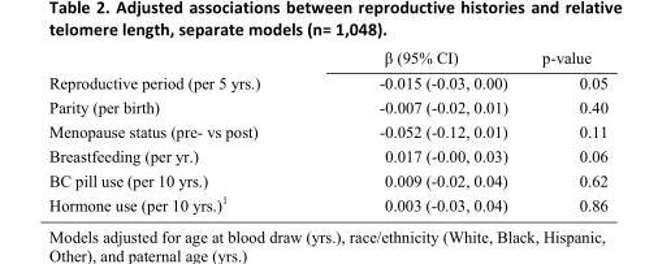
<table><thead><tr><td></td><td>β (95% CI)</td><td>p-value</td></tr></thead><tbody><tr><td>Reproductive period (per 5 yrs.)</td><td>-0.015 (-0.03, 0.00)</td><td>0.05</td></tr><tr><td>Parity (per birth)</td><td>-0.007 (-0.02, 0.01)</td><td>0.40</td></tr><tr><td>Menopause status (pre- vs post)</td><td>-0.052 (-0.12, 0.01)</td><td>0.11</td></tr><tr><td>Breastfeeding (per yr.)</td><td>0.017 (-0.00, 0.03)</td><td>0.06</td></tr><tr><td>BC pill use (per 10 yrs.)</td><td>0.009 (-0.02, 0.04)</td><td>0.62</td></tr><tr><td>Hormone use (per 10 yrs.)<sup>1</sup></td><td>0.003 (-0.03, 0.04)</td><td>0.86</td></tr></tbody></table>